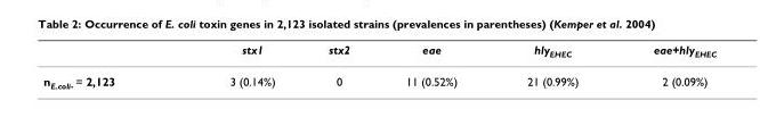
<table><thead><tr><td></td><td>stx1</td><td>stx2</td><td>eae</td><td>hly<sub>EHEC</sub></td><td>eae+hly<sub>EHEC</sub></td></tr></thead><tbody><tr><td>n<sub>E.coli-</sub> = 2,123</td><td>3 (0.14%)</td><td>0</td><td>11 (0.52%)</td><td>21 (0.99%)</td><td>2 (0.09%)</td></tr></tbody></table>